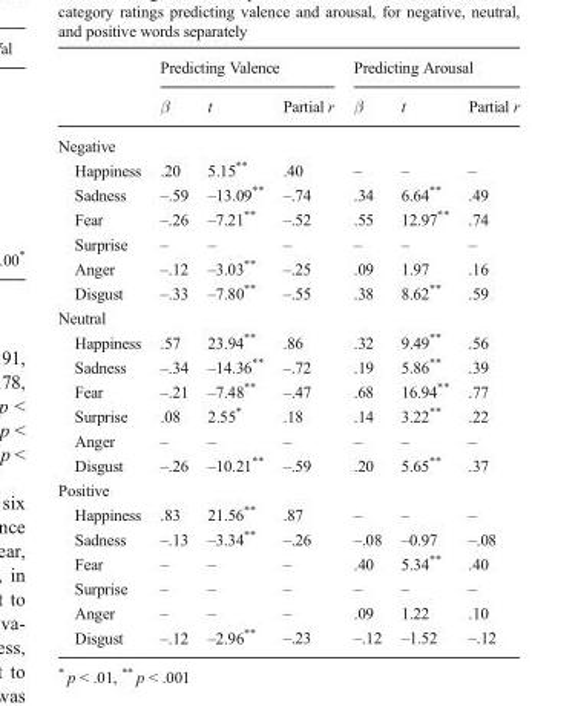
<table><thead><tr><td rowspan="2"></td><td colspan="3">Predicting Valence</td><td colspan="3">Predicting Arousal</td></tr><tr><td>β</td><td>t</td><td>Partial r</td><td>β</td><td>t</td><td>Partial r</td></tr></thead><tbody><tr><td colspan="7">Negative</td></tr><tr><td>Happiness</td><td>.20</td><td>5.15**</td><td>.40</td><td>–</td><td>–</td><td>–</td></tr><tr><td>Sadness</td><td>–.59</td><td>–13.09**</td><td>–.74</td><td>.34</td><td>6.64**</td><td>.49</td></tr><tr><td>Fear</td><td>–.26</td><td>–7.21**</td><td>–.52</td><td>.55</td><td>12.97**</td><td>.74</td></tr><tr><td>Surprise</td><td>–</td><td>–</td><td>–</td><td>–</td><td>–</td><td>–</td></tr><tr><td>Anger</td><td>–.12</td><td>–3.03**</td><td>–.25</td><td>.09</td><td>1.97</td><td>.16</td></tr><tr><td>Disgust</td><td>–.33</td><td>–7.80**</td><td>–.55</td><td>.38</td><td>8.62**</td><td>.59</td></tr><tr><td colspan="7">Neutral</td></tr><tr><td>Happiness</td><td>.57</td><td>23.94**</td><td>.86</td><td>.32</td><td>9.49**</td><td>.56</td></tr><tr><td>Sadness</td><td>–.34</td><td>–14.36**</td><td>–.72</td><td>.19</td><td>5.86**</td><td>.39</td></tr><tr><td>Fear</td><td>–.21</td><td>–7.48**</td><td>–.47</td><td>.68</td><td>16.94**</td><td>.77</td></tr><tr><td>Surprise</td><td>.08</td><td>2.55*</td><td>.18</td><td>.14</td><td>3.22**</td><td>.22</td></tr><tr><td>Anger</td><td>–</td><td>–</td><td>–</td><td>–</td><td>–</td><td>–</td></tr><tr><td>Disgust</td><td>–.26</td><td>–10.21**</td><td>–.59</td><td>.20</td><td>5.65**</td><td>.37</td></tr><tr><td colspan="7">Positive</td></tr><tr><td>Happiness</td><td>.83</td><td>21.56**</td><td>.87</td><td>–</td><td>–</td><td>–</td></tr><tr><td>Sadness</td><td>–.13</td><td>–3.34**</td><td>–.26</td><td>–.08</td><td>–0.97</td><td>–.08</td></tr><tr><td>Fear</td><td>–</td><td>–</td><td>–</td><td>.40</td><td>5.34**</td><td>.40</td></tr><tr><td>Surprise</td><td>–</td><td>–</td><td>–</td><td>–</td><td>–</td><td>–</td></tr><tr><td>Anger</td><td>–</td><td>–</td><td>–</td><td>.09</td><td>1.22</td><td>.10</td></tr><tr><td>Disgust</td><td>–.12</td><td>–2.96**</td><td>–.23</td><td>–.12</td><td>–1.52</td><td>–.12</td></tr></tbody></table>